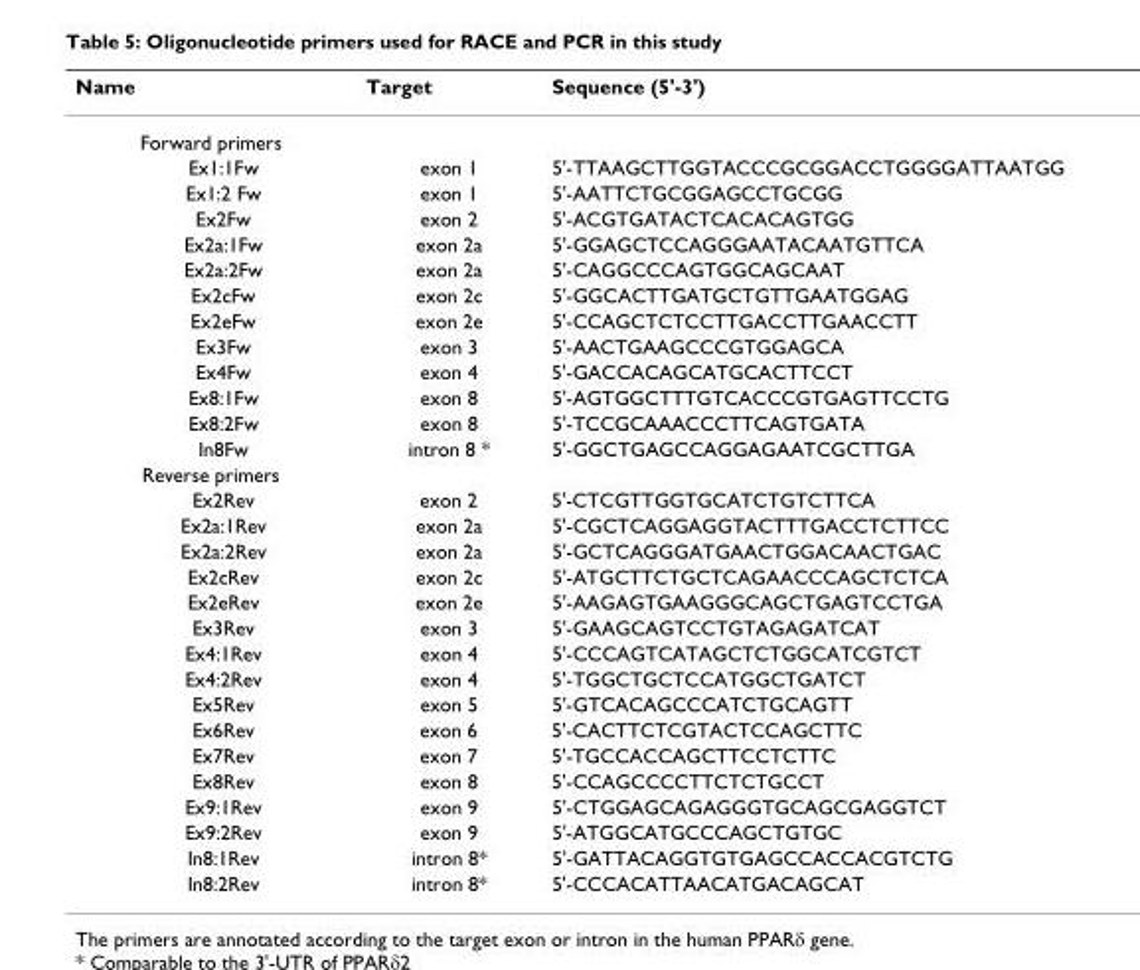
<table><thead><tr><td>Name</td><td>Target</td><td>Sequence (5&#x27;-3&#x27;)</td></tr></thead><tbody><tr><td colspan="3">Forward primers</td></tr><tr><td>Ex1:1Fw</td><td>exon 1</td><td>5&#x27;-TTAAGCTTGGTACCCGCGGACCTGGGGATTAATGG</td></tr><tr><td>Ex1:2 Fw</td><td>exon 1</td><td>5&#x27;-AATTCTGCGGAGCCTGCGG</td></tr><tr><td>Ex2Fw</td><td>exon 2</td><td>5&#x27;-ACGTGATACTCACACAGTGG</td></tr><tr><td>Ex2a:1Fw</td><td>exon 2a</td><td>5&#x27;-GGAGCTCCAGGGAATACAATGTTCA</td></tr><tr><td>Ex2a:2Fw</td><td>exon 2a</td><td>5&#x27;-CAGGCCCAGTGGCAGCAAT</td></tr><tr><td>Ex2cFw</td><td>exon 2c</td><td>5&#x27;-GGCACTTGATGCTGTTGAATGGAG</td></tr><tr><td>Ex2eFw</td><td>exon 2e</td><td>5&#x27;-CCAGCTCTCCTTGACCTTGAACCTT</td></tr><tr><td>Ex3Fw</td><td>exon 3</td><td>5&#x27;-AACTGAAGCCCGTGGAGCA</td></tr><tr><td>Ex4Fw</td><td>exon 4</td><td>5&#x27;-GACCACAGCATGCACTTCCT</td></tr><tr><td>Ex8:1Fw</td><td>exon 8</td><td>5&#x27;-AGTGGCTTTGTCACCCGTGAGTTCCTG</td></tr><tr><td>Ex8:2Fw</td><td>exon 8</td><td>5&#x27;-TCCGCAAACCCTTCAGTGATA</td></tr><tr><td>In8Fw</td><td>intron 8 *</td><td>5&#x27;-GGCTGAGCCAGGAGAATCGCTTGA</td></tr><tr><td colspan="3">Reverse primers</td></tr><tr><td>Ex2Rev</td><td>exon 2</td><td>5&#x27;-CTCGTTGGTGCATCTGTCTTCA</td></tr><tr><td>Ex2a:1Rev</td><td>exon 2a</td><td>5&#x27;-CGCTCAGGAGGTACTTTGACCTCTTCC</td></tr><tr><td>Ex2a:2Rev</td><td>exon 2a</td><td>5&#x27;-GCTCAGGGATGAACTGGACAACTGAC</td></tr><tr><td>Ex2cRev</td><td>exon 2c</td><td>5&#x27;-ATGCTTCTGCTCAGAACCCAGCTCTCA</td></tr><tr><td>Ex2eRev</td><td>exon 2e</td><td>5&#x27;-AAGAGTGAAGGGCAGCTGAGTCCTGA</td></tr><tr><td>Ex3Rev</td><td>exon 3</td><td>5&#x27;-GAAGCAGTCCTGTAGAGATCAT</td></tr><tr><td>Ex4:1Rev</td><td>exon 4</td><td>5&#x27;-CCCAGTCATAGCTCTGGCATCGTCT</td></tr><tr><td>Ex4:2Rev</td><td>exon 4</td><td>5&#x27;-TGGCTGCTCCATGGCTGATCT</td></tr><tr><td>Ex5Rev</td><td>exon 5</td><td>5&#x27;-GTCACAGCCCATCTGCAGTT</td></tr><tr><td>Ex6Rev</td><td>exon 6</td><td>5&#x27;-CACTTCTCGTACTCCAGCTTC</td></tr><tr><td>Ex7Rev</td><td>exon 7</td><td>5&#x27;-TGCCACCAGCTTCCTCTTC</td></tr><tr><td>Ex8Rev</td><td>exon 8</td><td>5&#x27;-CCAGCCCCTTCTCTGCCT</td></tr><tr><td>Ex9:1Rev</td><td>exon 9</td><td>5&#x27;-CTGGAGCAGAGGGTGCAGCGAGGTCT</td></tr><tr><td>Ex9:2Rev</td><td>exon 9</td><td>5&#x27;-ATGGCATGCCCAGCTGTGC</td></tr><tr><td>In8:1Rev</td><td>intron 8*</td><td>5&#x27;-GATTACAGGTGTGAGCCACCACGTCTG</td></tr><tr><td>In8:2Rev</td><td>intron 8*</td><td>5&#x27;-CCCACATTAACATGACAGCAT</td></tr></tbody></table>